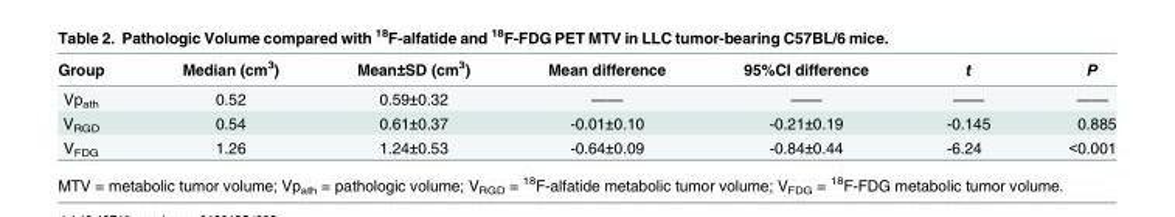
<table><thead><tr><td>Group</td><td>Median (cm<sup>3</sup>)</td><td>Mean±SD (cm<sup>3</sup>)</td><td>Mean difference</td><td>95%CI difference</td><td>t</td><td>P</td></tr></thead><tbody><tr><td>Vp<sub>ath</sub></td><td>0.52</td><td>0.59±0.32</td><td>——</td><td>——</td><td>——</td><td>——</td></tr><tr><td>V<sub>RGD</sub></td><td>0.54</td><td>0.61±0.37</td><td>-0.01±0.10</td><td>-0.21±0.19</td><td>-0.145</td><td>0.885</td></tr><tr><td>V<sub>FDG</sub></td><td>1.26</td><td>1.24±0.53</td><td>-0.64±0.09</td><td>-0.84±0.44</td><td>-6.24</td><td>&lt;0.001</td></tr></tbody></table>